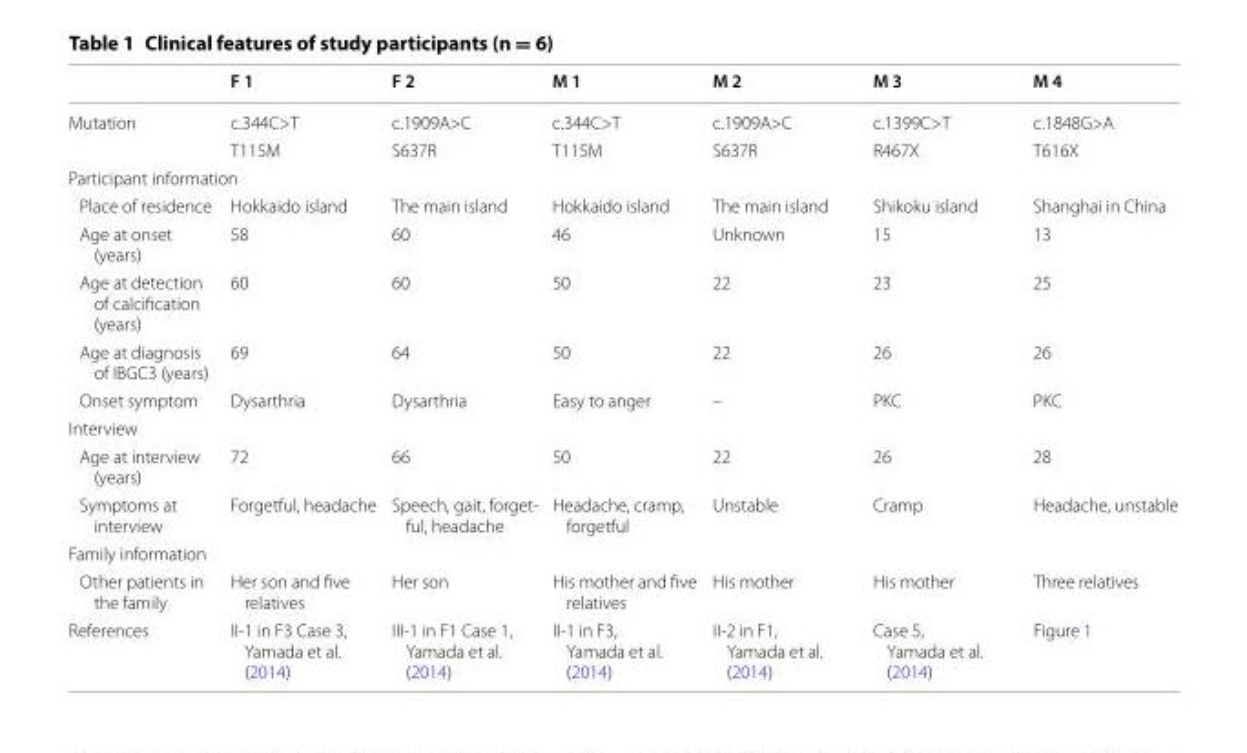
<table><thead><tr><td></td><td>F 1</td><td>F 2</td><td>M 1</td><td>M 2</td><td>M 3</td><td>M 4</td></tr></thead><tbody><tr><td rowspan="2">Mutation</td><td>c.344C&gt;T</td><td>c.1909A&gt;C</td><td>c.344C&gt;T</td><td>c.1909A&gt;C</td><td>c.1399C&gt;T</td><td>c.1848G&gt;A</td></tr><tr><td>T115M</td><td>S637R</td><td>T115M</td><td>S637R</td><td>R467X</td><td>T616X</td></tr><tr><td colspan="7">Participant information</td></tr><tr><td>Place of residence</td><td>Hokkaido island</td><td>The main island</td><td>Hokkaido island</td><td>The main island</td><td>Shikoku island</td><td>Shanghai in China</td></tr><tr><td>Age at onset (years)</td><td>58</td><td>60</td><td>46</td><td>Unknown</td><td>15</td><td>13</td></tr><tr><td>Age at detection of calcification (years)</td><td>60</td><td>60</td><td>50</td><td>22</td><td>23</td><td>25</td></tr><tr><td>Age at diagnosis of IBGC3 (years)</td><td>69</td><td>64</td><td>50</td><td>22</td><td>26</td><td>26</td></tr><tr><td>Onset symptom</td><td>Dysarthria</td><td>Dysarthria</td><td>Easy to anger</td><td>–</td><td>PKC</td><td>PKC</td></tr><tr><td colspan="7">Interview</td></tr><tr><td>Age at interview (years)</td><td>72</td><td>66</td><td>50</td><td>22</td><td>26</td><td>28</td></tr><tr><td>Symptoms at interview</td><td>Forgetful, headache</td><td>Speech, gait, forget- ful, headache</td><td>Headache, cramp, forgetful</td><td>Unstable</td><td>Cramp</td><td>Headache, unstable</td></tr><tr><td colspan="7">Family information</td></tr><tr><td>Other patients in the family</td><td>Her son and five relatives</td><td>Her son</td><td>His mother and five relatives</td><td>His mother</td><td>His mother</td><td>Three relatives</td></tr><tr><td>References</td><td>II-1 in F3 Case 3, Yamada et al. (2014)</td><td>III-1 in F1 Case 1, Yamada et al. (2014)</td><td>II-1 in F3, Yamada et al. (2014)</td><td>II-2 in F1, Yamada et al. (2014)</td><td>Case 5, Yamada et al. (2014)</td><td>Figure 1</td></tr></tbody></table>